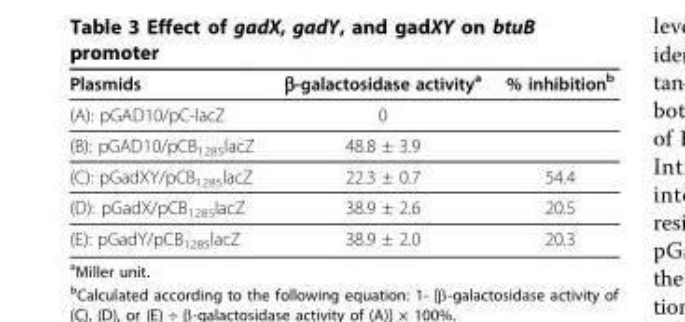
<table><thead><tr><td>Plasmids</td><td>β-galactosidase activity<sup>a</sup></td><td>% inhibition<sup>b</sup></td></tr></thead><tbody><tr><td>(A): pGAD10/pC-lacZ</td><td>0</td><td></td></tr><tr><td>(B): pGAD10/pCB<sub>1285</sub>lacZ</td><td>48.8 ± 3.9</td><td></td></tr><tr><td>(C): pGadXY/pCB<sub>1285</sub>lacZ</td><td>22.3 ± 0.7</td><td>54.4</td></tr><tr><td>(D): pGadX/pCB<sub>1285</sub>lacZ</td><td>38.9 ± 2.6</td><td>20.5</td></tr><tr><td>(E): pGadY/pCB<sub>1285</sub>lacZ</td><td>38.9 ± 2.0</td><td>20.3</td></tr></tbody></table>